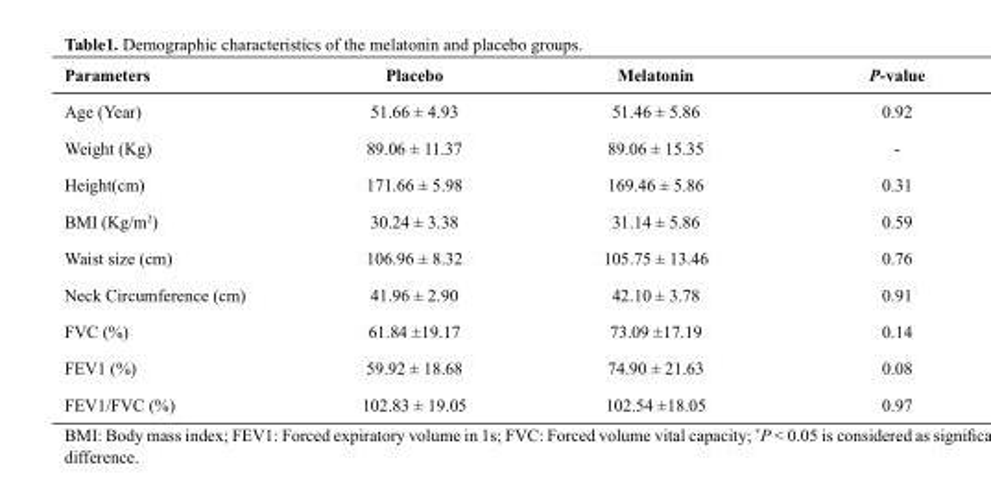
<table><thead><tr><td>Parameters</td><td>Placebo</td><td>Melatonin</td><td>P-value</td></tr></thead><tbody><tr><td>Age (Year)</td><td>51.66 ± 4.93</td><td>51.46 ± 5.86</td><td>0.92</td></tr><tr><td>Weight (Kg)</td><td>89.06 ± 11.37</td><td>89.06 ± 15.35</td><td>-</td></tr><tr><td>Height(cm)</td><td>171.66 ± 5.98</td><td>169.46 ± 5.86</td><td>0.31</td></tr><tr><td>BMI (Kg/m<sup>2</sup>)</td><td>30.24 ± 3.38</td><td>31.14 ± 5.86</td><td>0.59</td></tr><tr><td>Waist size (cm)</td><td>106.96 ± 8.32</td><td>105.75 ± 13.46</td><td>0.76</td></tr><tr><td>Neck Circumference (cm)</td><td>41.96 ± 2.90</td><td>42.10 ± 3.78</td><td>0.91</td></tr><tr><td>FVC (%)</td><td>61.84 ±19.17</td><td>73.09 ±17.19</td><td>0.14</td></tr><tr><td>FEV1 (%)</td><td>59.92 ± 18.68</td><td>74.90 ± 21.63</td><td>0.08</td></tr><tr><td>FEV1/FVC (%)</td><td>102.83 ± 19.05</td><td>102.54 ±18.05</td><td>0.97</td></tr></tbody></table>